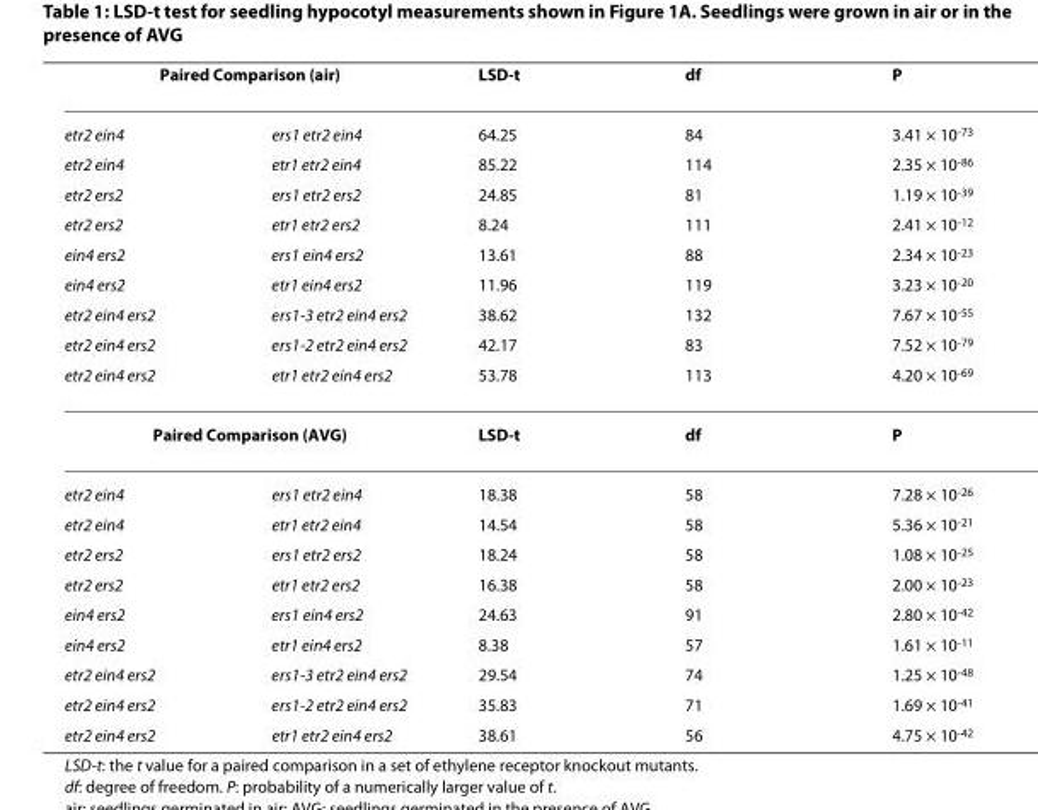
<table><thead><tr><td colspan="2">Paired Comparison (air)</td><td rowspan="2">LSD-t 64.25</td><td rowspan="2">df 84</td><td rowspan="2">P 3.41 × 10-73</td></tr><tr><td>etr2 ein4</td><td>ers1 etr2 ein4</td></tr></thead><tbody><tr><td>etr2 ein4</td><td>etr1 etr2 ein4</td><td>85.22</td><td>114</td><td>2.35 × 10-86</td></tr><tr><td>etr2 ers2</td><td>ers1 etr2 ers2</td><td>24.85</td><td>81</td><td>1.19 × 10-39</td></tr><tr><td>etr2 ers2</td><td>etr1 etr2 ers2</td><td>8.24</td><td>111</td><td>2.41 × 10-12</td></tr><tr><td>ein4 ers2</td><td>ers1 ein4 ers2</td><td>13.61</td><td>88</td><td>2.34 × 10-23</td></tr><tr><td>ein4 ers2</td><td>etr1 ein4 ers2</td><td>11.96</td><td>119</td><td>3.23 × 10-20</td></tr><tr><td>etr2 ein4 ers2</td><td>ers1-3 etr2 ein4 ers2</td><td>38.62</td><td>132</td><td>7.67 × 10-55</td></tr><tr><td>etr2 ein4 ers2</td><td>ers1-2 etr2 ein4 ers2</td><td>42.17</td><td>83</td><td>7.52 × 10-79</td></tr><tr><td>etr2 ein4 ers2</td><td>etr1 etr2 ein4 ers2</td><td>53.78</td><td>113</td><td>4.20 × 10-69</td></tr><tr><td colspan="2">Paired Comparison (AVG)</td><td>LSD-t</td><td>df</td><td>P</td></tr><tr><td>etr2 ein4</td><td>ers1 etr2 ein4</td><td>18.38</td><td>58</td><td>7.28 × 10-26</td></tr><tr><td>etr2 ein4</td><td>etr1 etr2 ein4</td><td>14.54</td><td>58</td><td>5.36 × 10-21</td></tr><tr><td>etr2 ers2</td><td>ers1 etr2 ers2</td><td>18.24</td><td>58</td><td>1.08 × 10-25</td></tr><tr><td>etr2 ers2</td><td>etr1 etr2 ers2</td><td>16.38</td><td>58</td><td>2.00 × 10-23</td></tr><tr><td>ein4 ers2</td><td>ers1 ein4 ers2</td><td>24.63</td><td>91</td><td>2.80 × 10-42</td></tr><tr><td>ein4 ers2</td><td>etr1 ein4 ers2</td><td>8.38</td><td>57</td><td>1.61 × 10-11</td></tr><tr><td>etr2 ein4 ers2</td><td>ers1-3 etr2 ein4 ers2</td><td>29.54</td><td>74</td><td>1.25 × 10-48</td></tr><tr><td>etr2 ein4 ers2</td><td>ers1-2 etr2 ein4 ers2</td><td>35.83</td><td>71</td><td>1.69 × 10-41</td></tr><tr><td>etr2 ein4 ers2</td><td>etr1 etr2 ein4 ers2</td><td>38.61</td><td>56</td><td>4.75 × 10-42</td></tr></tbody></table>